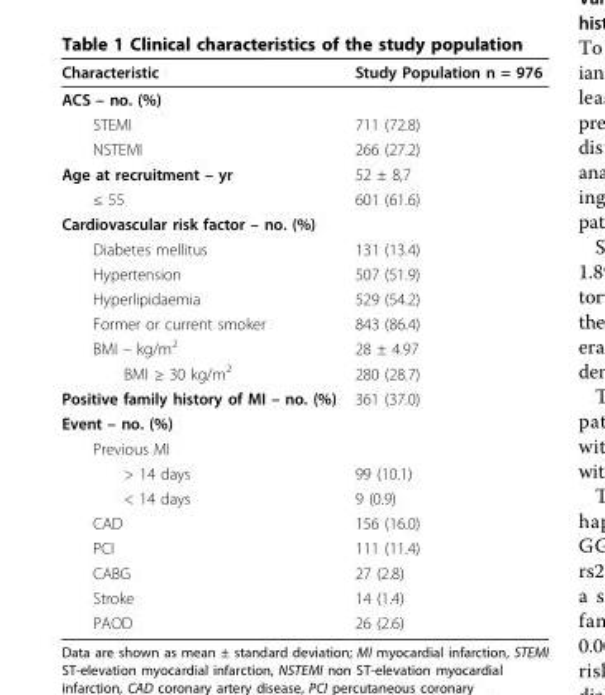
<table><thead><tr><td>Characteristic</td><td>Study Population n = 976</td></tr></thead><tbody><tr><td colspan="2">ACS – no. (%)</td></tr><tr><td>STEMI</td><td>711 (72.8)</td></tr><tr><td>NSTEMI</td><td>266 (27.2)</td></tr><tr><td>Age at recruitment – yr</td><td>52 ± 8,7</td></tr><tr><td>≤ 55</td><td>601 (61.6)</td></tr><tr><td colspan="2">Cardiovascular risk factor – no. (%)</td></tr><tr><td>Diabetes mellitus</td><td>131 (13.4)</td></tr><tr><td>Hypertension</td><td>507 (51.9)</td></tr><tr><td>Hyperlipidaemia</td><td>529 (54.2)</td></tr><tr><td>Former or current smoker</td><td>843 (86.4)</td></tr><tr><td>BMI – kg/m2</td><td>28 ± 4.97</td></tr><tr><td>BMI ≥ 30 kg/m<sup>2</sup></td><td>280 (28.7)</td></tr><tr><td>Positive family history of MI – no. (%)</td><td>361 (37.0)</td></tr><tr><td colspan="2">Event – no. (%)</td></tr><tr><td colspan="2">Previous MI</td></tr><tr><td>&gt; 14 days</td><td>99 (10.1)</td></tr><tr><td>&lt; 14 days</td><td>9 (0.9)</td></tr><tr><td>CAD</td><td>156 (16.0)</td></tr><tr><td>PCI</td><td>111 (11.4)</td></tr><tr><td>CABG</td><td>27 (2.8)</td></tr><tr><td>Stroke</td><td>14 (1.4)</td></tr><tr><td>PAOD</td><td>26 (2.6)</td></tr></tbody></table>